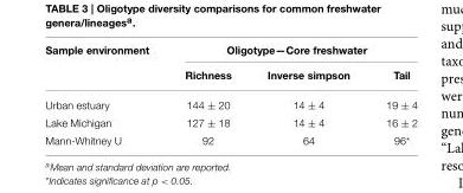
<table><thead><tr><td rowspan="2">Sample environment</td><td colspan="3">Oligotype—Core freshwater</td></tr><tr><td>Richness</td><td>Inverse simpson</td><td>Tail</td></tr></thead><tbody><tr><td>Urban estuary</td><td>144 ± 20</td><td>14 ± 4</td><td>19 ± 4</td></tr><tr><td>Lake Michigan</td><td>127 ± 18</td><td>14 ± 4</td><td>16 ± 2</td></tr><tr><td>Mann-Whitney U</td><td>92</td><td>64</td><td>96*</td></tr></tbody></table>